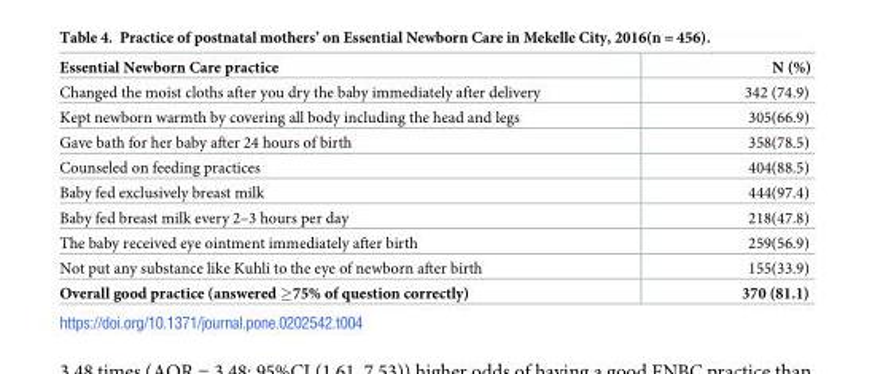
<table><thead><tr><td>Essential Newborn Care practice</td><td>N (%)</td></tr></thead><tbody><tr><td>Changed the moist cloths after you dry the baby immediately after delivery</td><td>342 (74.9)</td></tr><tr><td>Kept newborn warmth by covering all body including the head and legs</td><td>305(66.9)</td></tr><tr><td>Gave bath for her baby after 24 hours of birth</td><td>358(78.5)</td></tr><tr><td>Counseled on feeding practices</td><td>404(88.5)</td></tr><tr><td>Baby fed exclusively breast milk</td><td>444(97.4)</td></tr><tr><td>Baby fed breast milk every 2–3 hours per day</td><td>218(47.8)</td></tr><tr><td>The baby received eye ointment immediately after birth</td><td>259(56.9)</td></tr><tr><td>Not put any substance like Kuhli to the eye of newborn after birth</td><td>155(33.9)</td></tr><tr><td>Overall good practice (answered ≥75% of question correctly)</td><td>370 (81.1)</td></tr></tbody></table>